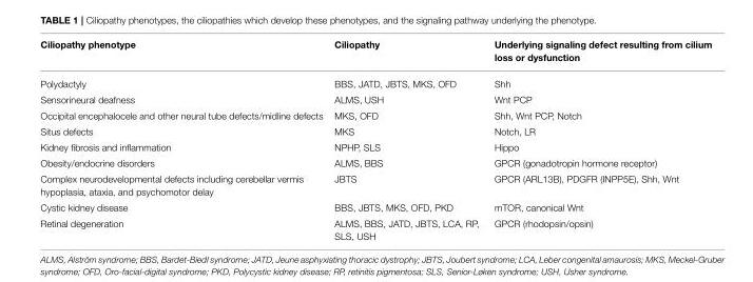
<table><thead><tr><td>Ciliopathy phenotype</td><td>Ciliopathy</td><td>Underlying signaling defect resulting from cilium loss or dysfunction</td></tr></thead><tbody><tr><td>Polydactyly</td><td>BBS, JATD, JBTS, MKS, OFD</td><td>Shh</td></tr><tr><td>Sensorineural deafness</td><td>ALMS, USH</td><td>Wnt PCP</td></tr><tr><td>Occipital encephalocele and other neural tube defects/midline defects</td><td>MKS, OFD</td><td>Shh, Wnt PCP, Notch</td></tr><tr><td>Situs defects</td><td>MKS</td><td>Notch, LR</td></tr><tr><td>Kidney fibrosis and inflammation</td><td>NPHP, SLS</td><td>Hippo</td></tr><tr><td>Obesity/endocrine disorders</td><td>ALMS, BBS</td><td>GPCR (gonadotropin hormone receptor)</td></tr><tr><td>Complex neurodevelopmental defects including cerebellar vermis hypoplasia, ataxia, and psychomotor delay</td><td>JBTS</td><td>GPCR (ARL13B), PDGFR (INPP5E), Shh, Wnt</td></tr><tr><td>Cystic kidney disease</td><td>BBS, JBTS, MKS, OFD, PKD</td><td>mTOR, canonical Wnt</td></tr><tr><td>Retinal degeneration</td><td>ALMS, BBS, JATD, JBTS, LCA, RP, SLS, USH</td><td>GPCR (rhodopsin/opsin)</td></tr></tbody></table>